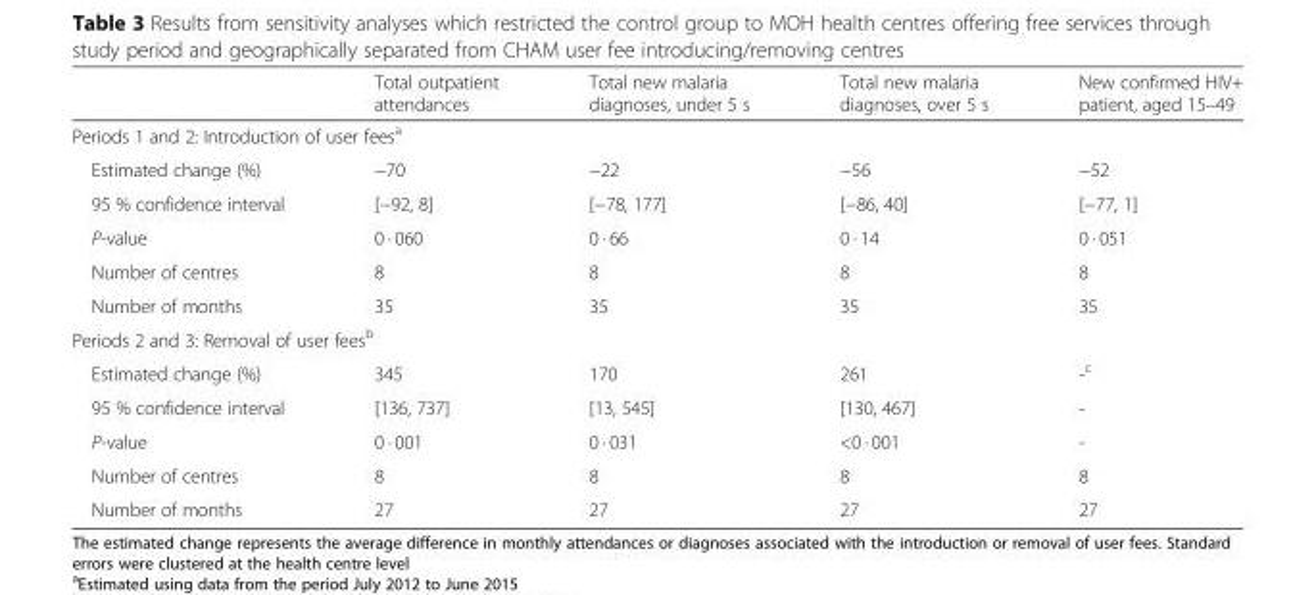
<table><thead><tr><td></td><td>Total outpatient attendances</td><td>Total new malaria diagnoses, under 5 s</td><td>Total new malaria diagnoses, over 5 s</td><td>New confirmed HIV+ patient, aged 15–49</td></tr></thead><tbody><tr><td colspan="5">Periods 1 and 2: Introduction of user fees<sup>a</sup></td></tr><tr><td>Estimated change (%)</td><td>−70</td><td>−22</td><td>−56</td><td>−52</td></tr><tr><td>95 % confidence interval</td><td>[−92, 8]</td><td>[−78, 177]</td><td>[−86, 40]</td><td>[−77, 1]</td></tr><tr><td>P-value</td><td>0 · 060</td><td>0 · 66</td><td>0 · 14</td><td>0 · 051</td></tr><tr><td>Number of centres</td><td>8</td><td>8</td><td>8</td><td>8</td></tr><tr><td>Number of months</td><td>35</td><td>35</td><td>35</td><td>35</td></tr><tr><td colspan="5">Periods 2 and 3: Removal of user fees<sup>b</sup></td></tr><tr><td>Estimated change (%)</td><td>345</td><td>170</td><td>261</td><td>-<sup>c</sup></td></tr><tr><td>95 % confidence interval</td><td>[136, 737]</td><td>[13, 545]</td><td>[130, 467]</td><td>-</td></tr><tr><td>P-value</td><td>0 · 001</td><td>0 · 031</td><td>&lt;0 · 001</td><td>-</td></tr><tr><td>Number of centres</td><td>8</td><td>8</td><td>8</td><td>8</td></tr><tr><td>Number of months</td><td>27</td><td>27</td><td>27</td><td>27</td></tr></tbody></table>